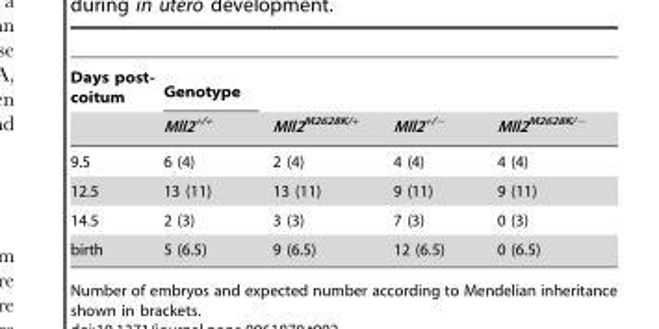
<table><thead><tr><td rowspan="2">Days post- coitum</td><td rowspan="2">Genotype Mll2<sup>+/+</sup></td><td rowspan="2">Mll2<sup>M2628K/+</sup></td><td rowspan="2">Mll2<sup>+/−</sup></td><td rowspan="2">Mll2<sup>M2628K/−</sup></td></tr><tr></tr></thead><tbody><tr><td>9.5</td><td>6 (4)</td><td>2 (4)</td><td>4 (4)</td><td>4 (4)</td></tr><tr><td>12.5</td><td>13 (11)</td><td>13 (11)</td><td>9 (11)</td><td>9 (11)</td></tr><tr><td>14.5</td><td>2 (3)</td><td>3 (3)</td><td>7 (3)</td><td>0 (3)</td></tr><tr><td>birth</td><td>5 (6.5)</td><td>9 (6.5)</td><td>12 (6.5)</td><td>0 (6.5)</td></tr></tbody></table>